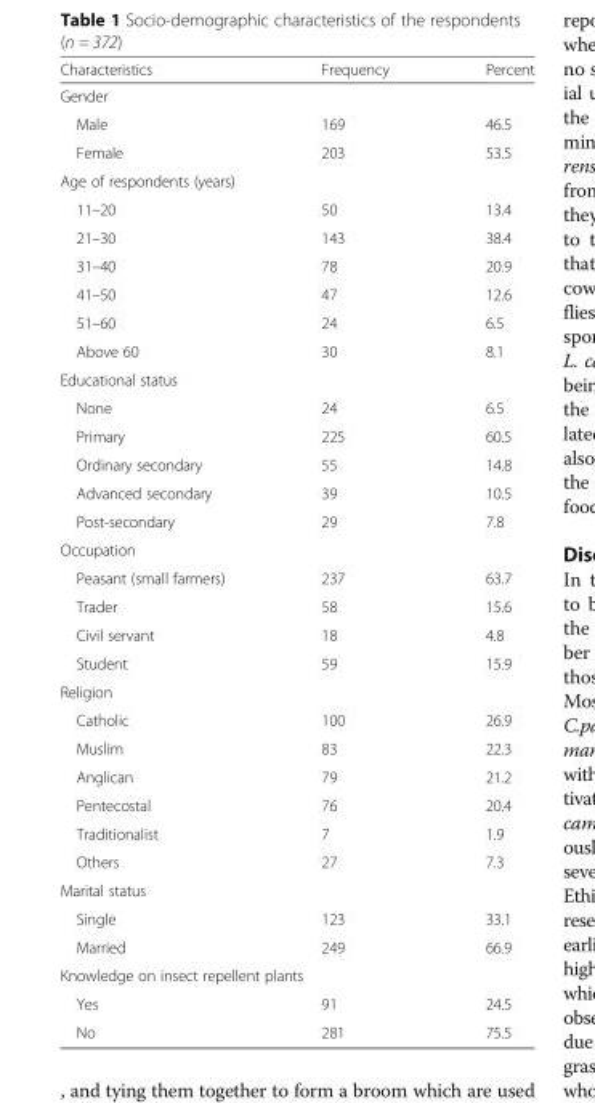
<table><thead><tr><td>Characteristics</td><td>Frequency</td><td>Percent</td></tr></thead><tbody><tr><td colspan="3">Gender</td></tr><tr><td>Male</td><td>169</td><td>46.5</td></tr><tr><td>Female</td><td>203</td><td>53.5</td></tr><tr><td colspan="3">Age of respondents (years)</td></tr><tr><td>11–20</td><td>50</td><td>13.4</td></tr><tr><td>21–30</td><td>143</td><td>38.4</td></tr><tr><td>31–40</td><td>78</td><td>20.9</td></tr><tr><td>41–50</td><td>47</td><td>12.6</td></tr><tr><td>51–60</td><td>24</td><td>6.5</td></tr><tr><td>Above 60</td><td>30</td><td>8.1</td></tr><tr><td colspan="3">Educational status</td></tr><tr><td>None</td><td>24</td><td>6.5</td></tr><tr><td>Primary</td><td>225</td><td>60.5</td></tr><tr><td>Ordinary secondary</td><td>55</td><td>14.8</td></tr><tr><td>Advanced secondary</td><td>39</td><td>10.5</td></tr><tr><td>Post-secondary</td><td>29</td><td>7.8</td></tr><tr><td colspan="3">Occupation</td></tr><tr><td>Peasant (small farmers)</td><td>237</td><td>63.7</td></tr><tr><td>Trader</td><td>58</td><td>15.6</td></tr><tr><td>Civil servant</td><td>18</td><td>4.8</td></tr><tr><td>Student</td><td>59</td><td>15.9</td></tr><tr><td colspan="3">Religion</td></tr><tr><td>Catholic</td><td>100</td><td>26.9</td></tr><tr><td>Muslim</td><td>83</td><td>22.3</td></tr><tr><td>Anglican</td><td>79</td><td>21.2</td></tr><tr><td>Pentecostal</td><td>76</td><td>20.4</td></tr><tr><td>Traditionalist</td><td>7</td><td>1.9</td></tr><tr><td>Others</td><td>27</td><td>7.3</td></tr><tr><td colspan="3">Marital status</td></tr><tr><td>Single</td><td>123</td><td>33.1</td></tr><tr><td>Married</td><td>249</td><td>66.9</td></tr><tr><td colspan="3">Knowledge on insect repellent plants</td></tr><tr><td>Yes</td><td>91</td><td>24.5</td></tr><tr><td>No</td><td>281</td><td>75.5</td></tr></tbody></table>